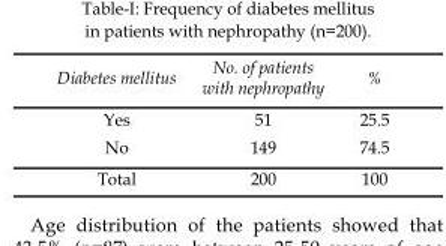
<table><thead><tr><td>Diabetes mellitus</td><td>No. of patients with nephropathy</td><td>%</td></tr></thead><tbody><tr><td>Yes</td><td>51</td><td>25.5</td></tr><tr><td>No</td><td>149</td><td>74.5</td></tr><tr><td>Total</td><td>200</td><td>100</td></tr></tbody></table>